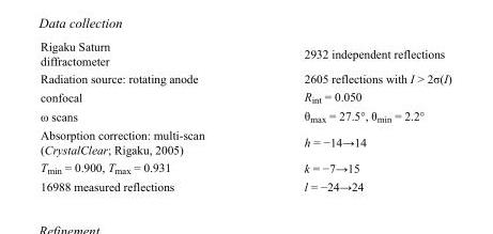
<table><tbody><tr><td>Rigaku Saturn diffractometer</td><td>2932 independent reflections</td></tr><tr><td>Radiation source: rotating anode</td><td>2605 reflections with I &gt; 2σ(I)</td></tr><tr><td>confocal</td><td>R<sub>int</sub> = 0.050</td></tr><tr><td>ω scans</td><td>θ<sub>max</sub> = 27.5°, θ<sub>min</sub> = 2.2°</td></tr><tr><td>Absorption correction: multi-scan (CrystalClear; Rigaku, 2005)</td><td>h = −14→14</td></tr><tr><td>T<sub>min</sub> = 0.900, T<sub>max</sub> = 0.931</td><td>k = −7→15</td></tr><tr><td>16988 measured reflections</td><td>l = −24→24</td></tr></tbody></table>